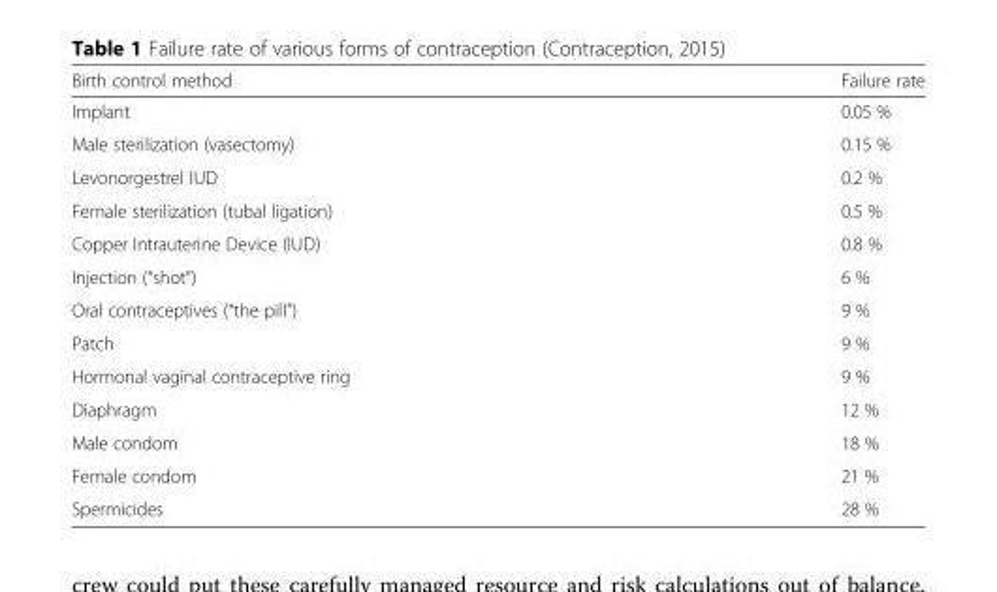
<table><thead><tr><td>Birth control method</td><td>Failure rate</td></tr></thead><tbody><tr><td>Implant</td><td>0.05 %</td></tr><tr><td>Male sterilization (vasectomy)</td><td>0.15 %</td></tr><tr><td>Levonorgestrel IUD</td><td>0.2 %</td></tr><tr><td>Female sterilization (tubal ligation)</td><td>0.5 %</td></tr><tr><td>Copper Intrauterine Device (IUD)</td><td>0.8 %</td></tr><tr><td>Injection (“shot”)</td><td>6 %</td></tr><tr><td>Oral contraceptives (“the pill”)</td><td>9 %</td></tr><tr><td>Patch</td><td>9 %</td></tr><tr><td>Hormonal vaginal contraceptive ring</td><td>9 %</td></tr><tr><td>Diaphragm</td><td>12 %</td></tr><tr><td>Male condom</td><td>18 %</td></tr><tr><td>Female condom</td><td>21 %</td></tr><tr><td>Spermicides</td><td>28 %</td></tr></tbody></table>